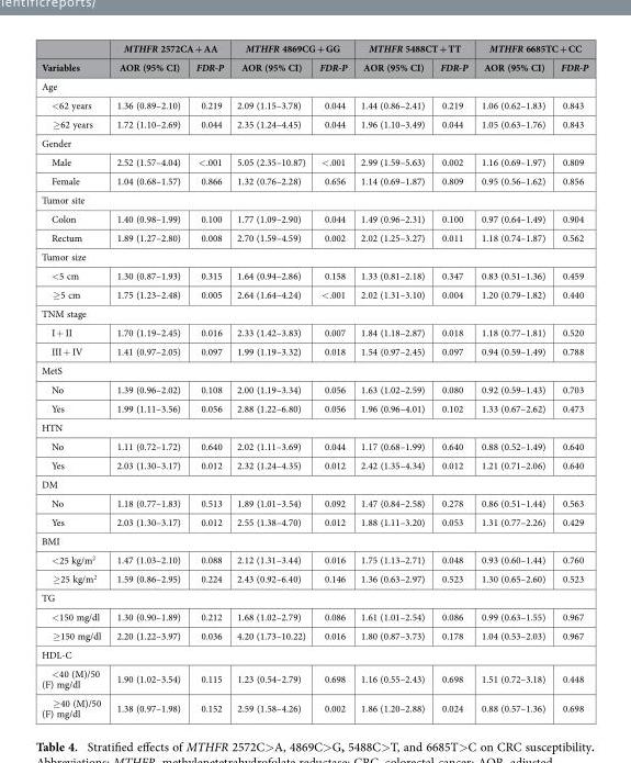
<table><thead><tr><td rowspan="2">Variables</td><td colspan="2">MTHFR 2572CA + AA</td><td colspan="2">MTHFR 4869CG + GG</td><td colspan="2">MTHFR 5488CT + TT</td><td colspan="2">MTHFR 6685TC + CC</td></tr><tr><td>AOR (95% CI)</td><td>FDR-P</td><td>AOR (95% CI)</td><td>FDR-P</td><td>AOR (95% CI)</td><td>FDR-P</td><td>AOR (95% CI)</td><td>FDR-P</td></tr></thead><tbody><tr><td colspan="9">Age</td></tr><tr><td>&lt;62 years</td><td>1.36 (0.89–2.10)</td><td>0.219</td><td>2.09 (1.15–3.78)</td><td>0.044</td><td>1.44 (0.86–2.41)</td><td>0.219</td><td>1.06 (0.62–1.83)</td><td>0.843</td></tr><tr><td>≥62 years</td><td>1.72 (1.10–2.69)</td><td>0.044</td><td>2.35 (1.24–4.45)</td><td>0.044</td><td>1.96 (1.10–3.49)</td><td>0.044</td><td>1.05 (0.63–1.76)</td><td>0.843</td></tr><tr><td colspan="9">Gender</td></tr><tr><td>Male</td><td>2.52 (1.57–4.04)</td><td>&lt;.001</td><td>5.05 (2.35–10.87)</td><td>&lt;.001</td><td>2.99 (1.59–5.63)</td><td>0.002</td><td>1.16 (0.69–1.97)</td><td>0.809</td></tr><tr><td>Female</td><td>1.04 (0.68–1.57)</td><td>0.866</td><td>1.32 (0.76–2.28)</td><td>0.656</td><td>1.14 (0.69–1.87)</td><td>0.809</td><td>0.95 (0.56–1.62)</td><td>0.856</td></tr><tr><td colspan="9">Tumor site</td></tr><tr><td>Colon</td><td>1.40 (0.98–1.99)</td><td>0.100</td><td>1.77 (1.09–2.90)</td><td>0.044</td><td>1.49 (0.96–2.31)</td><td>0.100</td><td>0.97 (0.64–1.49)</td><td>0.904</td></tr><tr><td>Rectum</td><td>1.89 (1.27–2.80)</td><td>0.008</td><td>2.70 (1.59–4.59)</td><td>0.002</td><td>2.02 (1.25–3.27)</td><td>0.011</td><td>1.18 (0.74–1.87)</td><td>0.562</td></tr><tr><td colspan="9">Tumor size</td></tr><tr><td>&lt;5 cm</td><td>1.30 (0.87–1.93)</td><td>0.315</td><td>1.64 (0.94–2.86)</td><td>0.158</td><td>1.33 (0.81–2.18)</td><td>0.347</td><td>0.83 (0.51–1.36)</td><td>0.459</td></tr><tr><td>≥5 cm</td><td>1.75 (1.23–2.48)</td><td>0.005</td><td>2.64 (1.64–4.24)</td><td>&lt;.001</td><td>2.02 (1.31–3.10)</td><td>0.004</td><td>1.20 (0.79–1.82)</td><td>0.440</td></tr><tr><td colspan="9">TNM stage</td></tr><tr><td>I + II</td><td>1.70 (1.19–2.45)</td><td>0.016</td><td>2.33 (1.42–3.83)</td><td>0.007</td><td>1.84 (1.18–2.87)</td><td>0.018</td><td>1.18 (0.77–1.81)</td><td>0.520</td></tr><tr><td>III + IV</td><td>1.41 (0.97–2.05)</td><td>0.097</td><td>1.99 (1.19–3.32)</td><td>0.018</td><td>1.54 (0.97–2.45)</td><td>0.097</td><td>0.94 (0.59–1.49)</td><td>0.788</td></tr><tr><td colspan="9">MetS</td></tr><tr><td>No</td><td>1.39 (0.96–2.02)</td><td>0.108</td><td>2.00 (1.19–3.34)</td><td>0.056</td><td>1.63 (1.02–2.59)</td><td>0.080</td><td>0.92 (0.59–1.43)</td><td>0.703</td></tr><tr><td>Yes</td><td>1.99 (1.11–3.56)</td><td>0.056</td><td>2.88 (1.22–6.80)</td><td>0.056</td><td>1.96 (0.96–4.01)</td><td>0.102</td><td>1.33 (0.67–2.62)</td><td>0.473</td></tr><tr><td colspan="9">HTN</td></tr><tr><td>No</td><td>1.11 (0.72–1.72)</td><td>0.640</td><td>2.02 (1.11–3.69)</td><td>0.044</td><td>1.17 (0.68–1.99)</td><td>0.640</td><td>0.88 (0.52–1.49)</td><td>0.640</td></tr><tr><td>Yes</td><td>2.03 (1.30–3.17)</td><td>0.012</td><td>2.32 (1.24–4.35)</td><td>0.012</td><td>2.42 (1.35–4.34)</td><td>0.012</td><td>1.21 (0.71–2.06)</td><td>0.640</td></tr><tr><td colspan="9">DM</td></tr><tr><td>No</td><td>1.18 (0.77–1.83)</td><td>0.513</td><td>1.89 (1.01–3.54)</td><td>0.092</td><td>1.47 (0.84–2.58)</td><td>0.278</td><td>0.86 (0.51–1.44)</td><td>0.563</td></tr><tr><td>Yes</td><td>2.03 (1.30–3.17)</td><td>0.012</td><td>2.55 (1.38–4.70)</td><td>0.012</td><td>1.88 (1.11–3.20)</td><td>0.053</td><td>1.31 (0.77–2.26)</td><td>0.429</td></tr><tr><td colspan="9">BMI</td></tr><tr><td>&lt;25 kg/m<sup>2</sup></td><td>1.47 (1.03–2.10)</td><td>0.088</td><td>2.12 (1.31–3.44)</td><td>0.016</td><td>1.75 (1.13–2.71)</td><td>0.048</td><td>0.93 (0.60–1.44)</td><td>0.760</td></tr><tr><td>≥25 kg/m<sup>2</sup></td><td>1.59 (0.86–2.95)</td><td>0.224</td><td>2.43 (0.92–6.40)</td><td>0.146</td><td>1.36 (0.63–2.97)</td><td>0.523</td><td>1.30 (0.65–2.60)</td><td>0.523</td></tr><tr><td colspan="9">TG</td></tr><tr><td>&lt;150 mg/dl</td><td>1.30 (0.90–1.89)</td><td>0.212</td><td>1.68 (1.02–2.79)</td><td>0.086</td><td>1.61 (1.01–2.54)</td><td>0.086</td><td>0.99 (0.63–1.55)</td><td>0.967</td></tr><tr><td>≥150 mg/dl</td><td>2.20 (1.22–3.97)</td><td>0.036</td><td>4.20 (1.73–10.22)</td><td>0.016</td><td>1.80 (0.87–3.73)</td><td>0.178</td><td>1.04 (0.53–2.03)</td><td>0.967</td></tr><tr><td colspan="9">HDL-C</td></tr><tr><td>&lt;40 (M)/50 (F) mg/dl</td><td>1.90 (1.02–3.54)</td><td>0.115</td><td>1.23 (0.54–2.79)</td><td>0.698</td><td>1.16 (0.55–2.43)</td><td>0.698</td><td>1.51 (0.72–3.18)</td><td>0.448</td></tr><tr><td>≥40 (M)/50 (F) mg/dl</td><td>1.38 (0.97–1.98)</td><td>0.152</td><td>2.59 (1.58–4.26)</td><td>0.002</td><td>1.86 (1.20–2.88)</td><td>0.024</td><td>0.88 (0.57–1.36)</td><td>0.698</td></tr></tbody></table>